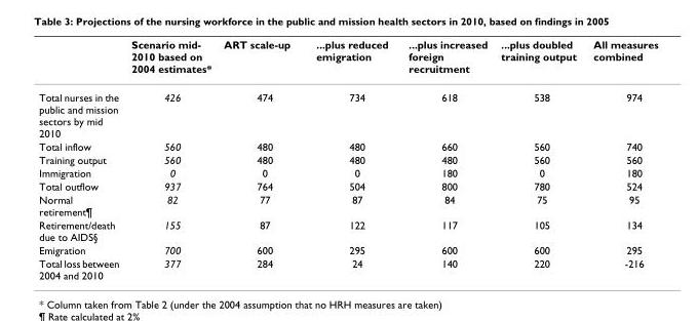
<table><thead><tr><td></td><td>Scenario mid- 2010 based on 2004 estimates*</td><td>ART scale-up</td><td>...plus reduced emigration</td><td>...plus increased foreign recruitment</td><td>...plus doubled training output</td><td>All measures combined</td></tr></thead><tbody><tr><td>Total nurses in the public and mission sectors by mid 2010</td><td>426</td><td>474</td><td>734</td><td>618</td><td>538</td><td>974</td></tr><tr><td>Total inflow</td><td>560</td><td>480</td><td>480</td><td>660</td><td>560</td><td>740</td></tr><tr><td>Training output</td><td>560</td><td>480</td><td>480</td><td>480</td><td>560</td><td>560</td></tr><tr><td>Immigration</td><td>0</td><td>0</td><td>0</td><td>180</td><td>0</td><td>180</td></tr><tr><td>Total outflow</td><td>937</td><td>764</td><td>504</td><td>800</td><td>780</td><td>524</td></tr><tr><td>Normal retirement¶</td><td>82</td><td>77</td><td>87</td><td>84</td><td>75</td><td>95</td></tr><tr><td>Retirement/death due to AIDS§</td><td>155</td><td>87</td><td>122</td><td>117</td><td>105</td><td>134</td></tr><tr><td>Emigration</td><td>700</td><td>600</td><td>295</td><td>600</td><td>600</td><td>295</td></tr><tr><td>Total loss between 2004 and 2010</td><td>377</td><td>284</td><td>24</td><td>140</td><td>220</td><td>-216</td></tr></tbody></table>